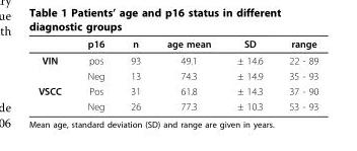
<table><thead><tr><td></td><td>p16</td><td>n</td><td>age mean</td><td>SD</td><td>range</td></tr></thead><tbody><tr><td rowspan="2">VIN</td><td>pos</td><td>93</td><td>49.1</td><td>± 14.6</td><td>22 - 89</td></tr><tr><td>Neg</td><td>13</td><td>74.3</td><td>± 14.9</td><td>35 - 93</td></tr><tr><td rowspan="2">VSCC</td><td>Pos</td><td>31</td><td>61.8</td><td>± 14.3</td><td>37 - 90</td></tr><tr><td>Neg</td><td>26</td><td>77.3</td><td>± 10.3</td><td>53 - 93</td></tr></tbody></table>